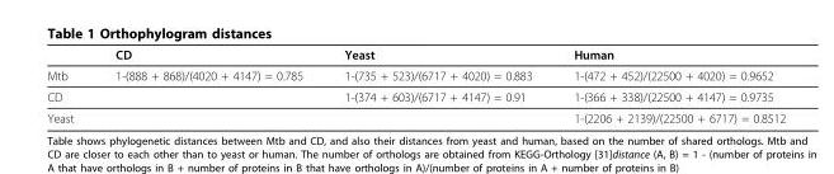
<table><thead><tr><td></td><td>CD</td><td>Yeast</td><td>Human</td></tr></thead><tbody><tr><td>Mtb</td><td>1-(888 + 868)/(4020 + 4147) = 0.785</td><td>1-(735 + 523)/(6717 + 4020) = 0.883</td><td>1-(472 + 452)/(22500 + 4020) = 0.9652</td></tr><tr><td>CD</td><td></td><td>1-(374 + 603)/(6717 + 4147) = 0.91</td><td>1-(366 + 338)/(22500 + 4147) = 0.9735</td></tr><tr><td>Yeast</td><td></td><td></td><td>1-(2206 + 2139)/(22500 + 6717) = 0.8512</td></tr></tbody></table>